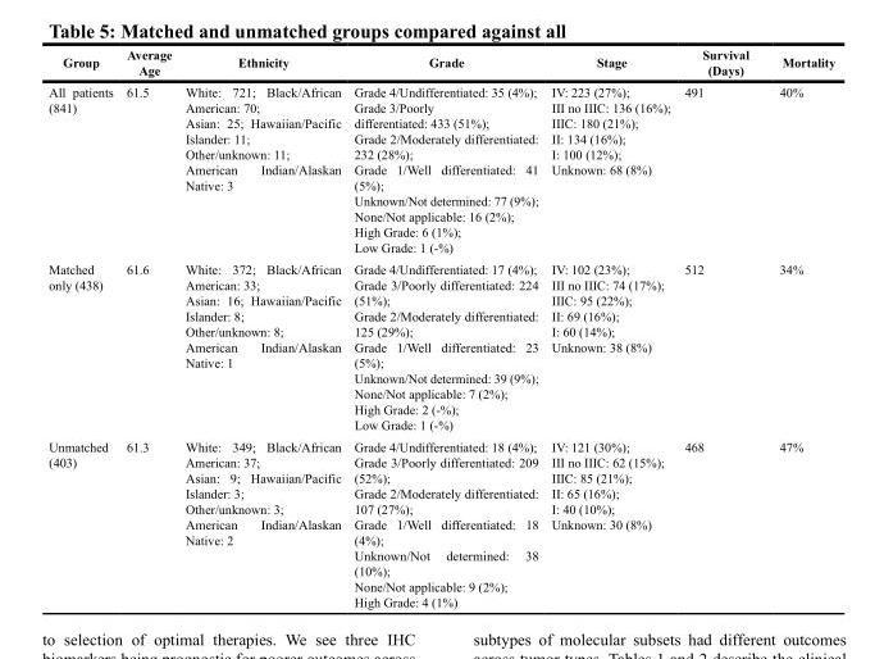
<table><thead><tr><td>Group</td><td>Average Age</td><td>Ethnicity</td><td>Grade</td><td>Stage</td><td>Survival (Days)</td><td>Mortality</td></tr></thead><tbody><tr><td>All patients (841)</td><td>61.5</td><td>White: 721; Black/African American: 70; Asian: 25; Hawaiian/Pacific Islander: 11; Other/unknown: 11; American Indian/Alaskan Native: 3</td><td>Grade 4/Undifferentiated: 35 (4%); Grade 3/Poorly differentiated: 433 (51%); Grade 2/Moderately differentiated: 232 (28%); Grade 1/Well differentiated: 41 (5%); Unknown/Not determined: 77 (9%); None/Not applicable: 16 (2%); High Grade: 6 (1%); Low Grade: 1 (-%)</td><td>IV: 223 (27%); III no IIIC: 136 (16%); IIIC: 180 (21%); II: 134 (16%); I: 100 (12%); Unknown: 68 (8%)</td><td>491</td><td>40%</td></tr><tr><td>Matched only (438)</td><td>61.6</td><td>White: 372; Black/African American: 33; Asian: 16; Hawaiian/Pacific Islander: 8; Other/unknown: 8; American Indian/Alaskan Native: 1</td><td>Grade 4/Undifferentiated: 17 (4%); Grade 3/Poorly differentiated: 224 (51%); Grade 2/Moderately differentiated: 125 (29%); Grade 1/Well differentiated: 23 (5%); Unknown/Not determined: 39 (9%); None/Not applicable: 7 (2%); High Grade: 2 (-%); Low Grade: 1 (-%)</td><td>IV: 102 (23%); III no IIIC: 74 (17%); IIIC: 95 (22%); II: 69 (16%); I: 60 (14%); Unknown: 38 (8%)</td><td>512</td><td>34%</td></tr><tr><td>Unmatched (403)</td><td>61.3</td><td>White: 349; Black/African American: 37; Asian: 9; Hawaiian/Pacific Islander: 3; Other/unknown: 3; American Indian/Alaskan Native: 2</td><td>Grade 4/Undifferentiated: 18 (4%); Grade 3/Poorly differentiated: 209 (52%); Grade 2/Moderately differentiated: 107 (27%); Grade 1/Well differentiated: 18 (4%); Unknown/Not determined: 38 (10%); None/Not applicable: 9 (2%); High Grade: 4 (1%)</td><td>IV: 121 (30%); III no IIIC: 62 (15%); IIIC: 85 (21%); II: 65 (16%); I: 40 (10%); Unknown: 30 (8%)</td><td>468</td><td>47%</td></tr></tbody></table>